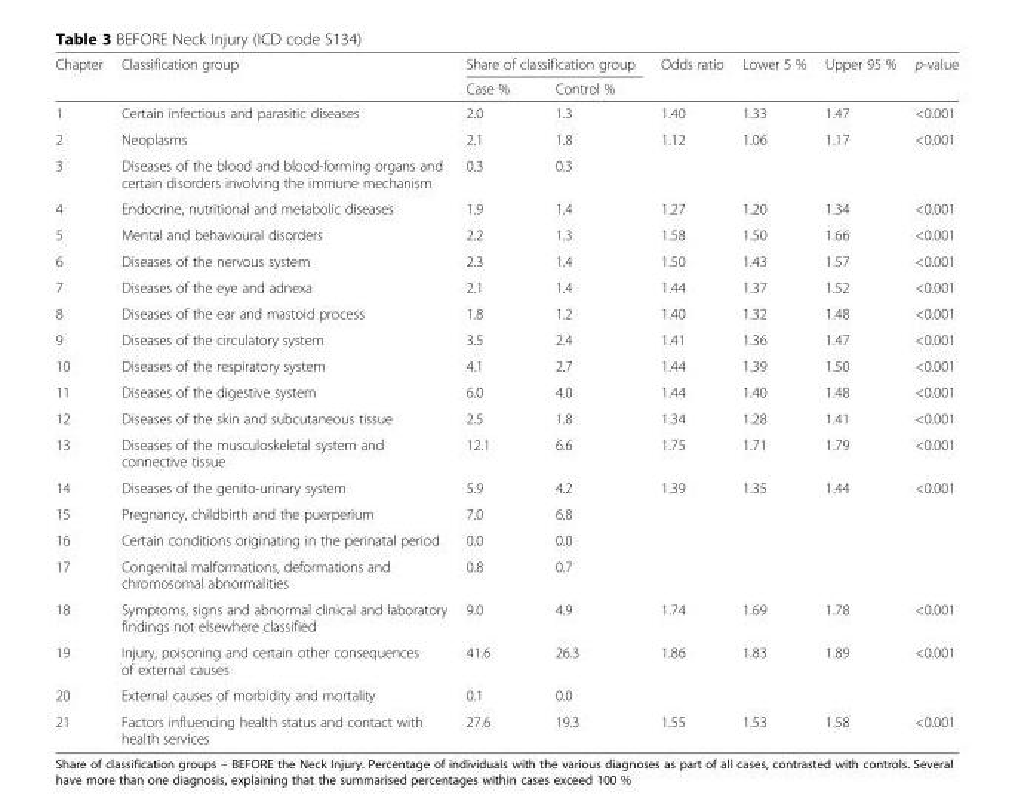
<table><thead><tr><td rowspan="2">Chapter</td><td rowspan="2">Classification group</td><td colspan="2">Share of classification group</td><td rowspan="2">Odds ratio</td><td rowspan="2">Lower 5 %</td><td rowspan="2">Upper 95 %</td><td rowspan="2">p-value</td></tr><tr><td>Case %</td><td>Control %</td></tr></thead><tbody><tr><td>1</td><td>Certain infectious and parasitic diseases</td><td>2.0</td><td>1.3</td><td>1.40</td><td>1.33</td><td>1.47</td><td>&lt;0.001</td></tr><tr><td>2</td><td>Neoplasms</td><td>2.1</td><td>1.8</td><td>1.12</td><td>1.06</td><td>1.17</td><td>&lt;0.001</td></tr><tr><td>3</td><td>Diseases of the blood and blood-forming organs and certain disorders involving the immune mechanism</td><td>0.3</td><td>0.3</td><td></td><td></td><td></td><td></td></tr><tr><td>4</td><td>Endocrine, nutritional and metabolic diseases</td><td>1.9</td><td>1.4</td><td>1.27</td><td>1.20</td><td>1.34</td><td>&lt;0.001</td></tr><tr><td>5</td><td>Mental and behavioural disorders</td><td>2.2</td><td>1.3</td><td>1.58</td><td>1.50</td><td>1.66</td><td>&lt;0.001</td></tr><tr><td>6</td><td>Diseases of the nervous system</td><td>2.3</td><td>1.4</td><td>1.50</td><td>1.43</td><td>1.57</td><td>&lt;0.001</td></tr><tr><td>7</td><td>Diseases of the eye and adnexa</td><td>2.1</td><td>1.4</td><td>1.44</td><td>1.37</td><td>1.52</td><td>&lt;0.001</td></tr><tr><td>8</td><td>Diseases of the ear and mastoid process</td><td>1.8</td><td>1.2</td><td>1.40</td><td>1.32</td><td>1.48</td><td>&lt;0.001</td></tr><tr><td>9</td><td>Diseases of the circulatory system</td><td>3.5</td><td>2.4</td><td>1.41</td><td>1.36</td><td>1.47</td><td>&lt;0.001</td></tr><tr><td>10</td><td>Diseases of the respiratory system</td><td>4.1</td><td>2.7</td><td>1.44</td><td>1.39</td><td>1.50</td><td>&lt;0.001</td></tr><tr><td>11</td><td>Diseases of the digestive system</td><td>6.0</td><td>4.0</td><td>1.44</td><td>1.40</td><td>1.48</td><td>&lt;0.001</td></tr><tr><td>12</td><td>Diseases of the skin and subcutaneous tissue</td><td>2.5</td><td>1.8</td><td>1.34</td><td>1.28</td><td>1.41</td><td>&lt;0.001</td></tr><tr><td>13</td><td>Diseases of the musculoskeletal system and connective tissue</td><td>12.1</td><td>6.6</td><td>1.75</td><td>1.71</td><td>1.79</td><td>&lt;0.001</td></tr><tr><td>14</td><td>Diseases of the genito-urinary system</td><td>5.9</td><td>4.2</td><td>1.39</td><td>1.35</td><td>1.44</td><td>&lt;0.001</td></tr><tr><td>15</td><td>Pregnancy, childbirth and the puerperium</td><td>7.0</td><td>6.8</td><td></td><td></td><td></td><td></td></tr><tr><td>16</td><td>Certain conditions originating in the perinatal period</td><td>0.0</td><td>0.0</td><td></td><td></td><td></td><td></td></tr><tr><td>17</td><td>Congenital malformations, deformations and chromosomal abnormalities</td><td>0.8</td><td>0.7</td><td></td><td></td><td></td><td></td></tr><tr><td>18</td><td>Symptoms, signs and abnormal clinical and laboratory findings not elsewhere classified</td><td>9.0</td><td>4.9</td><td>1.74</td><td>1.69</td><td>1.78</td><td>&lt;0.001</td></tr><tr><td>19</td><td>Injury, poisoning and certain other consequences of external causes</td><td>41.6</td><td>26.3</td><td>1.86</td><td>1.83</td><td>1.89</td><td>&lt;0.001</td></tr><tr><td>20</td><td>External causes of morbidity and mortality</td><td>0.1</td><td>0.0</td><td></td><td></td><td></td><td></td></tr><tr><td>21</td><td>Factors influencing health status and contact with health services</td><td>27.6</td><td>19.3</td><td>1.55</td><td>1.53</td><td>1.58</td><td>&lt;0.001</td></tr></tbody></table>